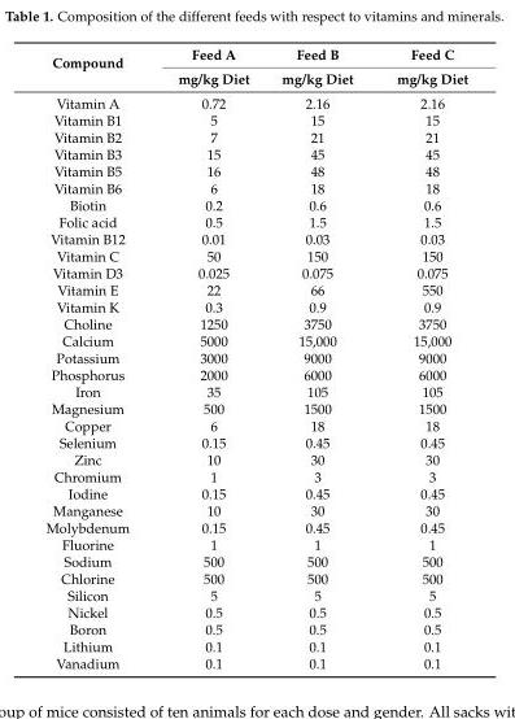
<table><thead><tr><td rowspan="2">Compound</td><td rowspan="2">Feed A mg/kg Diet</td><td rowspan="2">Feed B mg/kg Diet</td><td rowspan="2">Feed C mg/kg Diet</td></tr><tr></tr></thead><tbody><tr><td>Vitamin A</td><td>0.72</td><td>2.16</td><td>2.16</td></tr><tr><td>Vitamin B1</td><td>5</td><td>15</td><td>15</td></tr><tr><td>Vitamin B2</td><td>7</td><td>21</td><td>21</td></tr><tr><td>Vitamin B3</td><td>15</td><td>45</td><td>45</td></tr><tr><td>Vitamin B5</td><td>16</td><td>48</td><td>48</td></tr><tr><td>Vitamin B6</td><td>6</td><td>18</td><td>18</td></tr><tr><td>Biotin</td><td>0.2</td><td>0.6</td><td>0.6</td></tr><tr><td>Folic acid</td><td>0.5</td><td>1.5</td><td>1.5</td></tr><tr><td>Vitamin B12</td><td>0.01</td><td>0.03</td><td>0.03</td></tr><tr><td>Vitamin C</td><td>50</td><td>150</td><td>150</td></tr><tr><td>Vitamin D3</td><td>0.025</td><td>0.075</td><td>0.075</td></tr><tr><td>Vitamin E</td><td>22</td><td>66</td><td>550</td></tr><tr><td>Vitamin K</td><td>0.3</td><td>0.9</td><td>0.9</td></tr><tr><td>Choline</td><td>1250</td><td>3750</td><td>3750</td></tr><tr><td>Calcium</td><td>5000</td><td>15,000</td><td>15,000</td></tr><tr><td>Potassium</td><td>3000</td><td>9000</td><td>9000</td></tr><tr><td>Phosphorus</td><td>2000</td><td>6000</td><td>6000</td></tr><tr><td>Iron</td><td>35</td><td>105</td><td>105</td></tr><tr><td>Magnesium</td><td>500</td><td>1500</td><td>1500</td></tr><tr><td>Copper</td><td>6</td><td>18</td><td>18</td></tr><tr><td>Selenium</td><td>0.15</td><td>0.45</td><td>0.45</td></tr><tr><td>Zinc</td><td>10</td><td>30</td><td>30</td></tr><tr><td>Chromium</td><td>1</td><td>3</td><td>3</td></tr><tr><td>Iodine</td><td>0.15</td><td>0.45</td><td>0.45</td></tr><tr><td>Manganese</td><td>10</td><td>30</td><td>30</td></tr><tr><td>Molybdenum</td><td>0.15</td><td>0.45</td><td>0.45</td></tr><tr><td>Fluorine</td><td>1</td><td>1</td><td>1</td></tr><tr><td>Sodium</td><td>500</td><td>500</td><td>500</td></tr><tr><td>Chlorine</td><td>500</td><td>500</td><td>500</td></tr><tr><td>Silicon</td><td>5</td><td>5</td><td>5</td></tr><tr><td>Nickel</td><td>0.5</td><td>0.5</td><td>0.5</td></tr><tr><td>Boron</td><td>0.5</td><td>0.5</td><td>0.5</td></tr><tr><td>Lithium</td><td>0.1</td><td>0.1</td><td>0.1</td></tr><tr><td>Vanadium</td><td>0.1</td><td>0.1</td><td>0.1</td></tr></tbody></table>